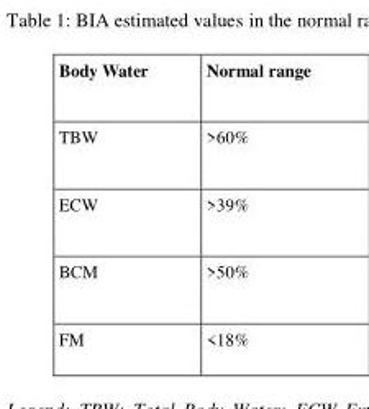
<table><thead><tr><td>Body Water</td><td>Normal range</td></tr></thead><tbody><tr><td>TBW</td><td>&gt;60%</td></tr><tr><td>ECW</td><td>&gt;39%</td></tr><tr><td>BCM</td><td>&gt;50%</td></tr><tr><td>FM</td><td>&lt;18%</td></tr></tbody></table>